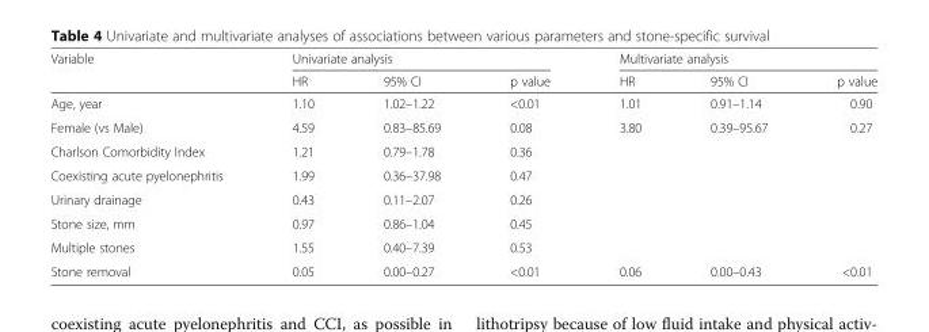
<table><thead><tr><td rowspan="2">Variable</td><td colspan="3">Univariate analysis</td><td colspan="3">Multivariate analysis</td></tr><tr><td>HR</td><td>95% CI</td><td>p value</td><td>HR</td><td>95% CI</td><td>p value</td></tr></thead><tbody><tr><td>Age, year</td><td>1.10</td><td>1.02–1.22</td><td>&lt;0.01</td><td>1.01</td><td>0.91–1.14</td><td>0.90</td></tr><tr><td>Female (vs Male)</td><td>4.59</td><td>0.83–85.69</td><td>0.08</td><td>3.80</td><td>0.39–95.67</td><td>0.27</td></tr><tr><td>Charlson Comorbidity Index</td><td>1.21</td><td>0.79–1.78</td><td>0.36</td><td></td><td></td><td></td></tr><tr><td>Coexisting acute pyelonephritis</td><td>1.99</td><td>0.36–37.98</td><td>0.47</td><td></td><td></td><td></td></tr><tr><td>Urinary drainage</td><td>0.43</td><td>0.11–2.07</td><td>0.26</td><td></td><td></td><td></td></tr><tr><td>Stone size, mm</td><td>0.97</td><td>0.86–1.04</td><td>0.45</td><td></td><td></td><td></td></tr><tr><td>Multiple stones</td><td>1.55</td><td>0.40–7.39</td><td>0.53</td><td></td><td></td><td></td></tr><tr><td>Stone removal</td><td>0.05</td><td>0.00–0.27</td><td>&lt;0.01</td><td>0.06</td><td>0.00–0.43</td><td>&lt;0.01</td></tr></tbody></table>